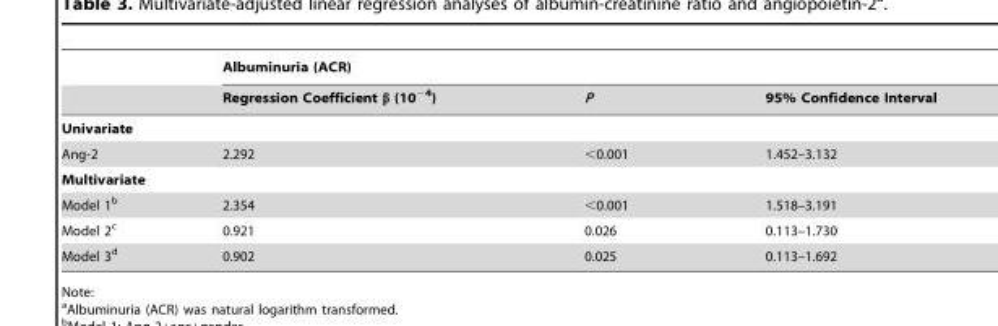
<table><thead><tr><td rowspan="2"></td><td colspan="3">Albuminuria (ACR)</td></tr><tr><td>Regression Coefficient β (10<sup>−4</sup>)</td><td>P</td><td>95% Confidence Interval</td></tr></thead><tbody><tr><td colspan="4">Univariate</td></tr><tr><td>Ang-2</td><td>2.292</td><td>&lt;0.001</td><td>1.452–3.132</td></tr><tr><td colspan="4">Multivariate</td></tr><tr><td>Model 1<sup>b</sup></td><td>2.354</td><td>&lt;0.001</td><td>1.518–3.191</td></tr><tr><td>Model 2<sup>c</sup></td><td>0.921</td><td>0.026</td><td>0.113–1.730</td></tr><tr><td>Model 3<sup>d</sup></td><td>0.902</td><td>0.025</td><td>0.113–1.692</td></tr></tbody></table>